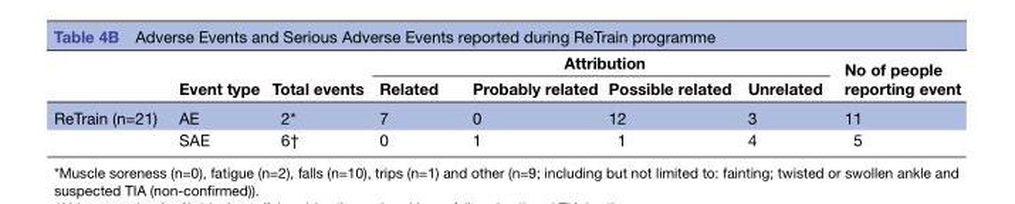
<table><thead><tr><td rowspan="2"></td><td rowspan="2">Event type</td><td rowspan="2">Total events</td><td colspan="4">Attribution</td><td rowspan="2">No of people reporting event</td></tr><tr><td>Related</td><td>Probably related</td><td>Possible related</td><td>Unrelated</td></tr></thead><tbody><tr><td rowspan="2">ReTrain (n=21)</td><td>AE</td><td>2*</td><td>7</td><td>0</td><td>12</td><td>3</td><td>11</td></tr><tr><td>SAE</td><td>6†</td><td>0</td><td>1</td><td>1</td><td>4</td><td>5</td></tr></tbody></table>